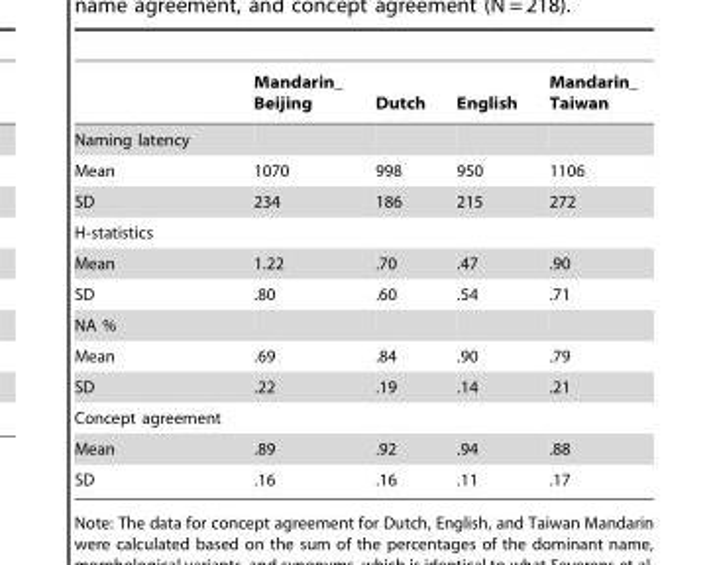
<table><thead><tr><td></td><td>Mandarin_ Beijing</td><td>Dutch</td><td>English</td><td>Mandarin_ Taiwan</td></tr></thead><tbody><tr><td colspan="5">Naming latency</td></tr><tr><td>Mean</td><td>1070</td><td>998</td><td>950</td><td>1106</td></tr><tr><td>SD</td><td>234</td><td>186</td><td>215</td><td>272</td></tr><tr><td colspan="5">H-statistics</td></tr><tr><td>Mean</td><td>1.22</td><td>.70</td><td>.47</td><td>.90</td></tr><tr><td>SD</td><td>.80</td><td>.60</td><td>.54</td><td>.71</td></tr><tr><td colspan="5">NA %</td></tr><tr><td>Mean</td><td>.69</td><td>.84</td><td>.90</td><td>.79</td></tr><tr><td>SD</td><td>.22</td><td>.19</td><td>.14</td><td>.21</td></tr><tr><td colspan="5">Concept agreement</td></tr><tr><td>Mean</td><td>.89</td><td>.92</td><td>.94</td><td>.88</td></tr><tr><td>SD</td><td>.16</td><td>.16</td><td>.11</td><td>.17</td></tr></tbody></table>